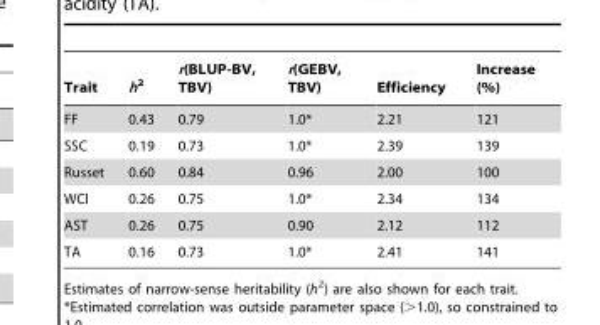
<table><thead><tr><td>Trait</td><td>h<sup>2</sup></td><td>r(BLUP-BV, TBV)</td><td>r(GEBV, TBV)</td><td>Efficiency</td><td>Increase (%)</td></tr></thead><tbody><tr><td>FF</td><td>0.43</td><td>0.79</td><td>1.0*</td><td>2.21</td><td>121</td></tr><tr><td>SSC</td><td>0.19</td><td>0.73</td><td>1.0*</td><td>2.39</td><td>139</td></tr><tr><td>Russet</td><td>0.60</td><td>0.84</td><td>0.96</td><td>2.00</td><td>100</td></tr><tr><td>WCI</td><td>0.26</td><td>0.75</td><td>1.0*</td><td>2.34</td><td>134</td></tr><tr><td>AST</td><td>0.26</td><td>0.75</td><td>0.90</td><td>2.12</td><td>112</td></tr><tr><td>TA</td><td>0.16</td><td>0.73</td><td>1.0*</td><td>2.41</td><td>141</td></tr></tbody></table>